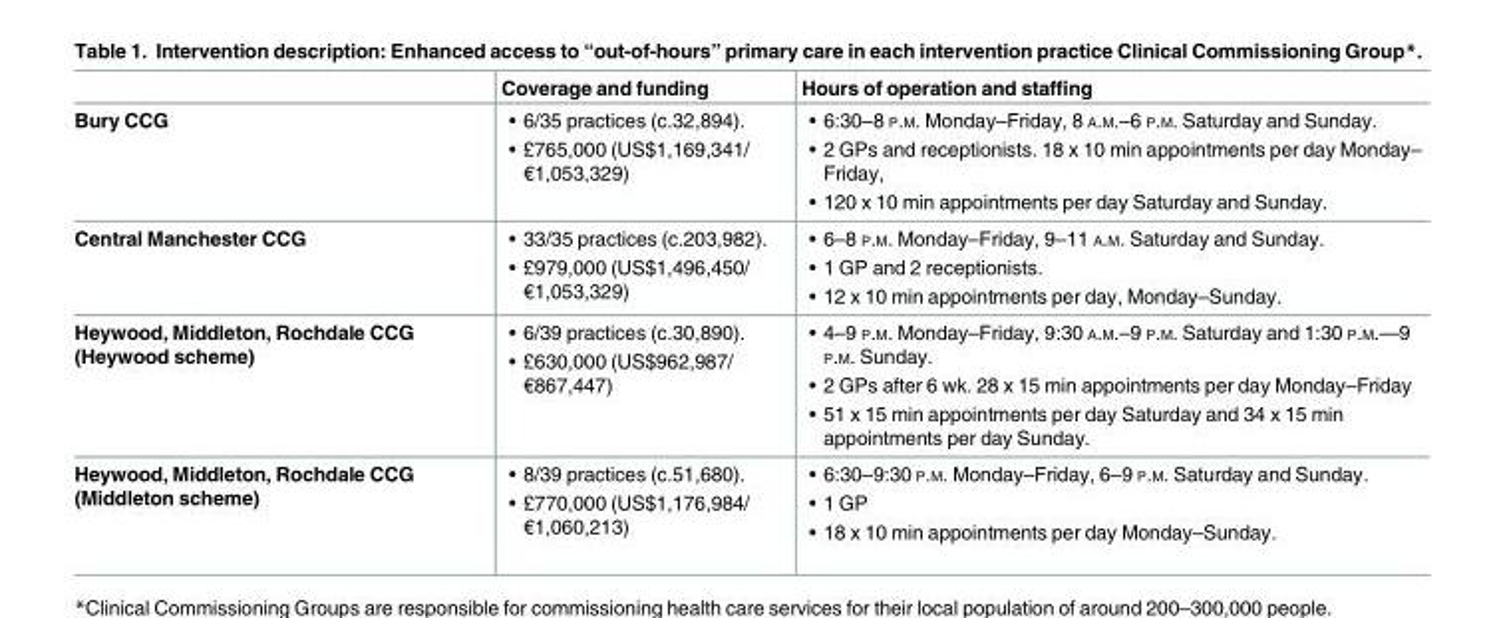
<table><thead><tr><td></td><td>Coverage and funding</td><td>Hours of operation and staffing</td></tr></thead><tbody><tr><td>Bury CCG</td><td>• 6/35 practices (c.32,894). • £765,000 (US$1,169,341/ €1,053,329)</td><td>• 6:30–8 P.M. Monday–Friday, 8 A.M.–6 P.M. Saturday and Sunday. • 2 GPs and receptionists. 18 x 10 min appointments per day Monday– Friday, • 120 x 10 min appointments per day Saturday and Sunday.</td></tr><tr><td>Central Manchester CCG</td><td>• 33/35 practices (c.203,982). • £979,000 (US$1,496,450/ €1,053,329)</td><td>• 6–8 P.M. Monday–Friday, 9–11 A.M. Saturday and Sunday. • 1 GP and 2 receptionists. • 12 x 10 min appointments per day, Monday–Sunday.</td></tr><tr><td>Heywood, Middleton, Rochdale CCG (Heywood scheme)</td><td>• 6/39 practices (c.30,890). • £630,000 (US$962,987/ €867,447)</td><td>• 4–9 P.M. Monday–Friday, 9:30 A.M.–9 P.M. Saturday and 1:30 P.M.—9 P.M. Sunday. • 2 GPs after 6 wk. 28 x 15 min appointments per day Monday–Friday • 51 x 15 min appointments per day Saturday and 34 x 15 min appointments per day Sunday.</td></tr><tr><td>Heywood, Middleton, Rochdale CCG (Middleton scheme)</td><td>• 8/39 practices (c.51,680). • £770,000 (US$1,176,984/ €1,060,213)</td><td>• 6:30–9:30 P.M. Monday–Friday, 6–9 P.M. Saturday and Sunday. • 1 GP • 18 x 10 min appointments per day Monday–Sunday.</td></tr></tbody></table>